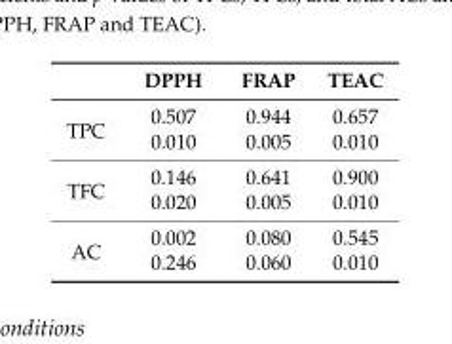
<table><thead><tr><td></td><td>DPPH</td><td>FRAP</td><td>TEAC</td></tr></thead><tbody><tr><td rowspan="2">TPC</td><td>0.507</td><td>0.944</td><td>0.657</td></tr><tr><td>0.010</td><td>0.005</td><td>0.010</td></tr><tr><td rowspan="2">TFC</td><td>0.146</td><td>0.641</td><td>0.900</td></tr><tr><td>0.020</td><td>0.005</td><td>0.010</td></tr><tr><td rowspan="2">AC</td><td>0.002</td><td>0.080</td><td>0.545</td></tr><tr><td>0.246</td><td>0.060</td><td>0.010</td></tr></tbody></table>